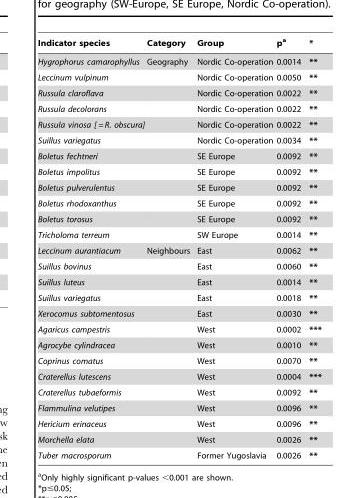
<table><thead><tr><td>Indicator species</td><td>Category</td><td>Group</td><td>p<sup>a</sup></td><td>*</td></tr></thead><tbody><tr><td>Hygrophorus camarophyllus</td><td>Geography</td><td>Nordic Co-operation</td><td>0.0014</td><td>**</td></tr><tr><td>Leccinum vulpinum</td><td></td><td>Nordic Co-operation</td><td>0.0050</td><td>**</td></tr><tr><td>Russula claroflava</td><td></td><td>Nordic Co-operation</td><td>0.0022</td><td>**</td></tr><tr><td>Russula decolorans</td><td></td><td>Nordic Co-operation</td><td>0.0022</td><td>**</td></tr><tr><td>Russula vinosa [ = R. obscura]</td><td></td><td>Nordic Co-operation</td><td>0.0022</td><td>**</td></tr><tr><td>Suillus variegatus</td><td></td><td>Nordic Co-operation</td><td>0.0034</td><td>**</td></tr><tr><td>Boletus fechtneri</td><td></td><td>SE Europe</td><td>0.0092</td><td>**</td></tr><tr><td>Boletus impolitus</td><td></td><td>SE Europe</td><td>0.0092</td><td>**</td></tr><tr><td>Boletus pulverulentus</td><td></td><td>SE Europe</td><td>0.0092</td><td>**</td></tr><tr><td>Boletus rhodoxanthus</td><td></td><td>SE Europe</td><td>0.0092</td><td>**</td></tr><tr><td>Boletus torosus</td><td></td><td>SE Europe</td><td>0.0092</td><td>**</td></tr><tr><td>Tricholoma terreum</td><td></td><td>SW Europe</td><td>0.0014</td><td>**</td></tr><tr><td>Leccinum aurantiacum</td><td>Neighbours</td><td>East</td><td>0.0062</td><td>**</td></tr><tr><td>Suillus bovinus</td><td></td><td>East</td><td>0.0060</td><td>**</td></tr><tr><td>Suillus luteus</td><td></td><td>East</td><td>0.0014</td><td>**</td></tr><tr><td>Suillus variegatus</td><td></td><td>East</td><td>0.0018</td><td>**</td></tr><tr><td>Xerocomus subtomentosus</td><td></td><td>East</td><td>0.0030</td><td>**</td></tr><tr><td>Agaricus campestris</td><td></td><td>West</td><td>0.0002</td><td>***</td></tr><tr><td>Agrocybe cylindracea</td><td></td><td>West</td><td>0.0010</td><td>**</td></tr><tr><td>Coprinus comatus</td><td></td><td>West</td><td>0.0070</td><td>**</td></tr><tr><td>Craterellus lutescens</td><td></td><td>West</td><td>0.0004</td><td>***</td></tr><tr><td>Craterellus tubaeformis</td><td></td><td>West</td><td>0.0092</td><td>**</td></tr><tr><td>Flammulina velutipes</td><td></td><td>West</td><td>0.0096</td><td>**</td></tr><tr><td>Hericium erinaceus</td><td></td><td>West</td><td>0.0096</td><td>**</td></tr><tr><td>Morchella elata</td><td></td><td>West</td><td>0.0026</td><td>**</td></tr><tr><td>Tuber macrosporum</td><td></td><td>Former Yugoslavia</td><td>0.0026</td><td>**</td></tr></tbody></table>